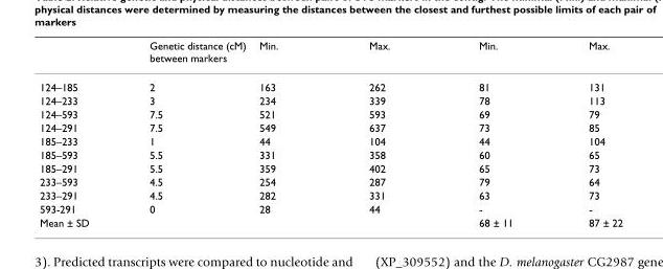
<table><thead><tr><td></td><td>Genetic distance (cM) between markers</td><td>Min.</td><td>Max.</td><td>Min.</td><td>Max.</td></tr></thead><tbody><tr><td>124–185</td><td>2</td><td>163</td><td>262</td><td>81</td><td>131</td></tr><tr><td>124–233</td><td>3</td><td>234</td><td>339</td><td>78</td><td>113</td></tr><tr><td>124–593</td><td>7.5</td><td>521</td><td>593</td><td>69</td><td>79</td></tr><tr><td>124–291</td><td>7.5</td><td>549</td><td>637</td><td>73</td><td>85</td></tr><tr><td>185–233</td><td>1</td><td>44</td><td>104</td><td>44</td><td>104</td></tr><tr><td>185–593</td><td>5.5</td><td>331</td><td>358</td><td>60</td><td>65</td></tr><tr><td>185–291</td><td>5.5</td><td>359</td><td>402</td><td>65</td><td>73</td></tr><tr><td>233–593</td><td>4.5</td><td>254</td><td>287</td><td>79</td><td>64</td></tr><tr><td>233–291</td><td>4.5</td><td>282</td><td>331</td><td>63</td><td>73</td></tr><tr><td>593-291</td><td>0</td><td>28</td><td>44</td><td>-</td><td>-</td></tr><tr><td>Mean ± SD</td><td></td><td></td><td></td><td>68 ± 11</td><td>87 ± 22</td></tr></tbody></table>